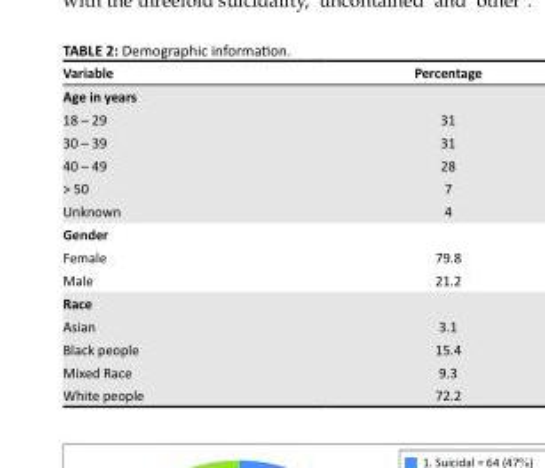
<table><thead><tr><td>Variable</td><td>Percentage</td></tr></thead><tbody><tr><td colspan="2">Age in years</td></tr><tr><td>18 – 29</td><td>31</td></tr><tr><td>30 – 39</td><td>31</td></tr><tr><td>40 – 49</td><td>28</td></tr><tr><td>&gt; 50</td><td>7</td></tr><tr><td>Unknown</td><td>4</td></tr><tr><td colspan="2">Gender</td></tr><tr><td>Female</td><td>79.8</td></tr><tr><td>Male</td><td>21.2</td></tr><tr><td colspan="2">Race</td></tr><tr><td>Asian</td><td>3.1</td></tr><tr><td>Black people</td><td>15.4</td></tr><tr><td>Mixed Race</td><td>9.3</td></tr><tr><td>White people</td><td>72.2</td></tr></tbody></table>